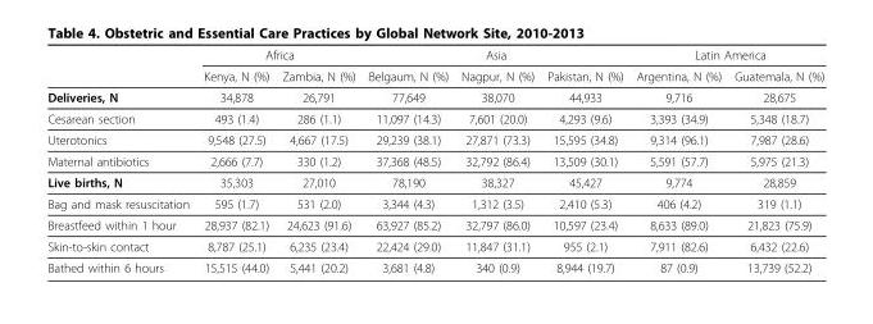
<table><thead><tr><td rowspan="2"></td><td colspan="2">Africa</td><td colspan="3">Asia</td><td colspan="2">Latin America</td></tr><tr><td>Kenya, N (%)</td><td>Zambia, N (%)</td><td>Belgaum, N (%)</td><td>Nagpur, N (%)</td><td>Pakistan, N (%)</td><td>Argentina, N (%)</td><td>Guatemala, N (%)</td></tr></thead><tbody><tr><td>Deliveries, N</td><td>34,878</td><td>26,791</td><td>77,649</td><td>38,070</td><td>44,933</td><td>9,716</td><td>28,675</td></tr><tr><td>Cesarean section</td><td>493 (1.4)</td><td>286 (1.1)</td><td>11,097 (14.3)</td><td>7,601 (20.0)</td><td>4,293 (9.6)</td><td>3,393 (34.9)</td><td>5,348 (18.7)</td></tr><tr><td>Uterotonics</td><td>9,548 (27.5)</td><td>4,667 (17.5)</td><td>29,239 (38.1)</td><td>27,871 (73.3)</td><td>15,595 (34.8)</td><td>9,314 (96.1)</td><td>7,987 (28.6)</td></tr><tr><td>Maternal antibiotics</td><td>2,666 (7.7)</td><td>330 (1.2)</td><td>37,368 (48.5)</td><td>32,792 (86.4)</td><td>13,509 (30.1)</td><td>5,591 (57.7)</td><td>5,975 (21.3)</td></tr><tr><td>Live births, N</td><td>35,303</td><td>27,010</td><td>78,190</td><td>38,327</td><td>45,427</td><td>9,774</td><td>28,859</td></tr><tr><td>Bag and mask resuscitation</td><td>595 (1.7)</td><td>531 (2.0)</td><td>3,344 (4.3)</td><td>1,312 (3.5)</td><td>2,410 (5.3)</td><td>406 (4.2)</td><td>319 (1.1)</td></tr><tr><td>Breastfeed within 1 hour</td><td>28,937 (82.1)</td><td>24,623 (91.6)</td><td>63,927 (85.2)</td><td>32,797 (86.0)</td><td>10,597 (23.4)</td><td>8,633 (89.0)</td><td>21,823 (75.9)</td></tr><tr><td>Skin-to-skin contact</td><td>8,787 (25.1)</td><td>6,235 (23.4)</td><td>22,424 (29.0)</td><td>11,847 (31.1)</td><td>955 (2.1)</td><td>7,911 (82.6)</td><td>6,432 (22.6)</td></tr><tr><td>Bathed within 6 hours</td><td>15,515 (44.0)</td><td>5,441 (20.2)</td><td>3,681 (4.8)</td><td>340 (0.9)</td><td>8,944 (19.7)</td><td>87 (0.9)</td><td>13,739 (52.2)</td></tr></tbody></table>